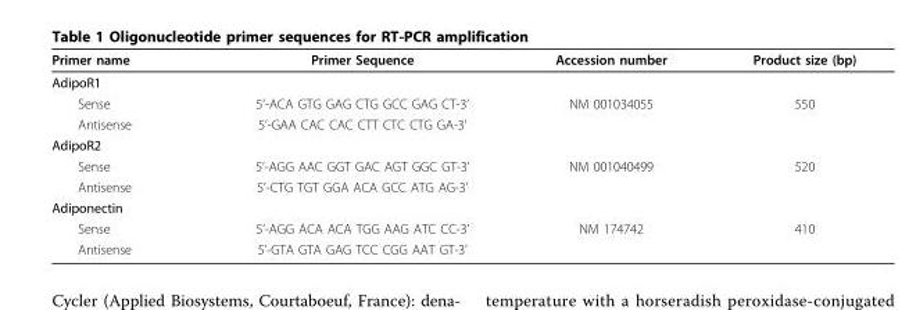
<table><thead><tr><td>Primer name</td><td>Primer Sequence</td><td>Accession number</td><td>Product size (bp)</td></tr></thead><tbody><tr><td colspan="4">AdipoR1</td></tr><tr><td>Sense</td><td>5’-ACA GTG GAG CTG GCC GAG CT-3’</td><td>NM 001034055</td><td>550</td></tr><tr><td>Antisense</td><td>5’-GAA CAC CAC CTT CTC CTG GA-3’</td><td></td><td></td></tr><tr><td colspan="4">AdipoR2</td></tr><tr><td>Sense</td><td>5’-AGG AAC GGT GAC AGT GGC GT-3’</td><td>NM 001040499</td><td>520</td></tr><tr><td>Antisense</td><td>5’-CTG TGT GGA ACA GCC ATG AG-3’</td><td></td><td></td></tr><tr><td colspan="4">Adiponectin</td></tr><tr><td>Sense</td><td>5’-AGG ACA ACA TGG AAG ATC CC-3’</td><td>NM 174742</td><td>410</td></tr><tr><td>Antisense</td><td>5’-GTA GTA GAG TCC CGG AAT GT-3’</td><td></td><td></td></tr></tbody></table>